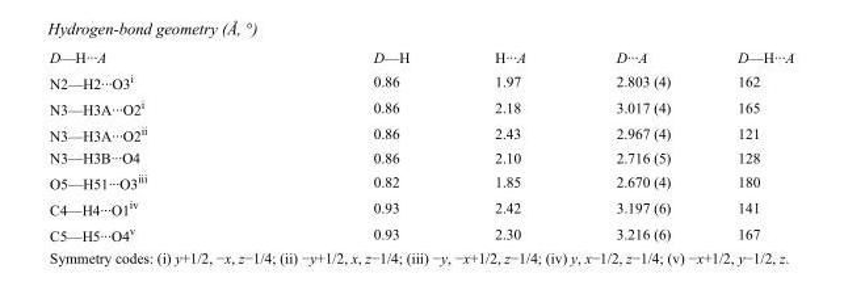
<table><tbody><tr><td>D—H···A</td><td>D—H</td><td>H···A</td><td>D···A</td><td>D—H···A</td></tr><tr><td>N2—H2···O3<sup>i</sup></td><td>0.86</td><td>1.97</td><td>2.803 (4)</td><td>162</td></tr><tr><td>N3—H3A···O2<sup>i</sup></td><td>0.86</td><td>2.18</td><td>3.017 (4)</td><td>165</td></tr><tr><td>N3—H3A···O2<sup>ii</sup></td><td>0.86</td><td>2.43</td><td>2.967 (4)</td><td>121</td></tr><tr><td>N3—H3B···O4</td><td>0.86</td><td>2.10</td><td>2.716 (5)</td><td>128</td></tr><tr><td>O5—H51···O3<sup>iii</sup></td><td>0.82</td><td>1.85</td><td>2.670 (4)</td><td>180</td></tr><tr><td>C4—H4···O1<sup>iv</sup></td><td>0.93</td><td>2.42</td><td>3.197 (6)</td><td>141</td></tr><tr><td>C5—H5···O4<sup>v</sup></td><td>0.93</td><td>2.30</td><td>3.216 (6)</td><td>167</td></tr></tbody></table>